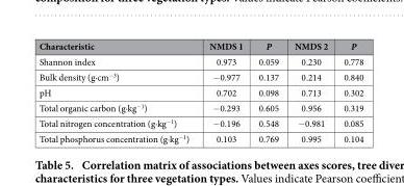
<table><thead><tr><td>Characteristic</td><td>NMDS 1</td><td>P</td><td>NMDS 2</td><td>P</td></tr></thead><tbody><tr><td>Shannon index</td><td>0.973</td><td>0.059</td><td>0.230</td><td>0.778</td></tr><tr><td>Bulk density (g·cm<sup>−3</sup>)</td><td>− 0.977</td><td>0.137</td><td>0.214</td><td>0.840</td></tr><tr><td>pH</td><td>0.702</td><td>0.098</td><td>0.713</td><td>0.302</td></tr><tr><td>Total organic carbon (g·kg<sup>−1</sup>)</td><td>− 0.293</td><td>0.605</td><td>0.956</td><td>0.319</td></tr><tr><td>Total nitrogen concentration (g·kg<sup>−1</sup>)</td><td>− 0.196</td><td>0.548</td><td>− 0.981</td><td>0.085</td></tr><tr><td>Total phosphorus concentration (g·kg<sup>−1</sup>)</td><td>0.103</td><td>0.769</td><td>0.995</td><td>0.104</td></tr></tbody></table>